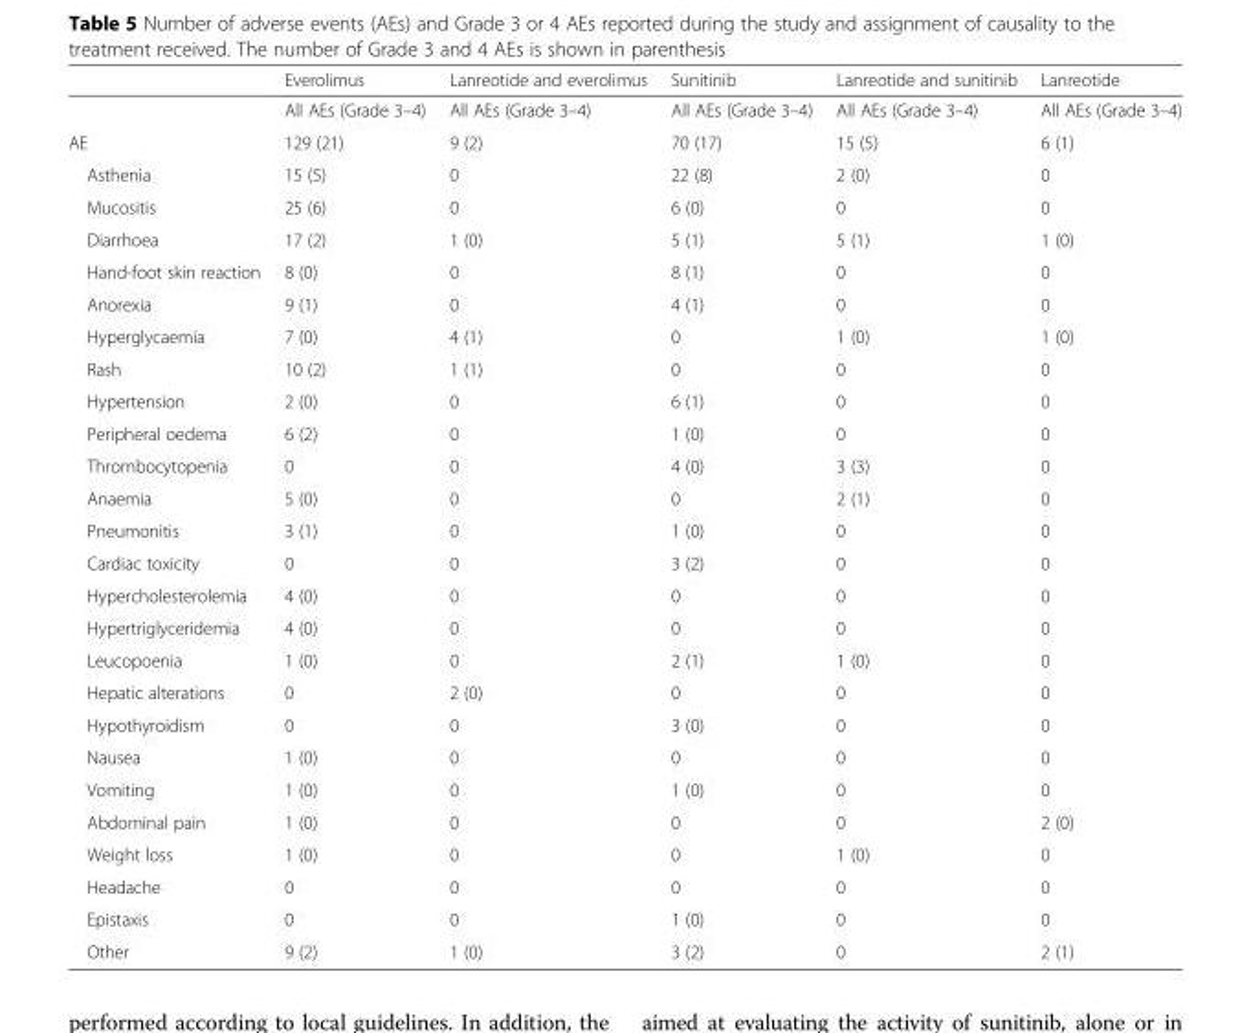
<table><thead><tr><td></td><td>Everolimus</td><td>Lanreotide and everolimus</td><td>Sunitinib</td><td>Lanreotide and sunitinib</td><td>Lanreotide</td></tr></thead><tbody><tr><td></td><td>All AEs (Grade 3–4)</td><td>All AEs (Grade 3–4)</td><td>All AEs (Grade 3–4)</td><td>All AEs (Grade 3–4)</td><td>All AEs (Grade 3–4)</td></tr><tr><td>AE</td><td>129 (21)</td><td>9 (2)</td><td>70 (17)</td><td>15 (5)</td><td>6 (1)</td></tr><tr><td>Asthenia</td><td>15 (5)</td><td>0</td><td>22 (8)</td><td>2 (0)</td><td>0</td></tr><tr><td>Mucositis</td><td>25 (6)</td><td>0</td><td>6 (0)</td><td>0</td><td>0</td></tr><tr><td>Diarrhoea</td><td>17 (2)</td><td>1 (0)</td><td>5 (1)</td><td>5 (1)</td><td>1 (0)</td></tr><tr><td>Hand-foot skin reaction</td><td>8 (0)</td><td>0</td><td>8 (1)</td><td>0</td><td>0</td></tr><tr><td>Anorexia</td><td>9 (1)</td><td>0</td><td>4 (1)</td><td>0</td><td>0</td></tr><tr><td>Hyperglycaemia</td><td>7 (0)</td><td>4 (1)</td><td>0</td><td>1 (0)</td><td>1 (0)</td></tr><tr><td>Rash</td><td>10 (2)</td><td>1 (1)</td><td>0</td><td>0</td><td>0</td></tr><tr><td>Hypertension</td><td>2 (0)</td><td>0</td><td>6 (1)</td><td>0</td><td>0</td></tr><tr><td>Peripheral oedema</td><td>6 (2)</td><td>0</td><td>1 (0)</td><td>0</td><td>0</td></tr><tr><td>Thrombocytopenia</td><td>0</td><td>0</td><td>4 (0)</td><td>3 (3)</td><td>0</td></tr><tr><td>Anaemia</td><td>5 (0)</td><td>0</td><td>0</td><td>2 (1)</td><td>0</td></tr><tr><td>Pneumonitis</td><td>3 (1)</td><td>0</td><td>1 (0)</td><td>0</td><td>0</td></tr><tr><td>Cardiac toxicity</td><td>0</td><td>0</td><td>3 (2)</td><td>0</td><td>0</td></tr><tr><td>Hypercholesterolemia</td><td>4 (0)</td><td>0</td><td>0</td><td>0</td><td>0</td></tr><tr><td>Hypertriglyceridemia</td><td>4 (0)</td><td>0</td><td>0</td><td>0</td><td>0</td></tr><tr><td>Leucopoenia</td><td>1 (0)</td><td>0</td><td>2 (1)</td><td>1 (0)</td><td>0</td></tr><tr><td>Hepatic alterations</td><td>0</td><td>2 (0)</td><td>0</td><td>0</td><td>0</td></tr><tr><td>Hypothyroidism</td><td>0</td><td>0</td><td>3 (0)</td><td>0</td><td>0</td></tr><tr><td>Nausea</td><td>1 (0)</td><td>0</td><td>0</td><td>0</td><td>0</td></tr><tr><td>Vomiting</td><td>1 (0)</td><td>0</td><td>1 (0)</td><td>0</td><td>0</td></tr><tr><td>Abdominal pain</td><td>1 (0)</td><td>0</td><td>0</td><td>0</td><td>2 (0)</td></tr><tr><td>Weight loss</td><td>1 (0)</td><td>0</td><td>0</td><td>1 (0)</td><td>0</td></tr><tr><td>Headache</td><td>0</td><td>0</td><td>0</td><td>0</td><td>0</td></tr><tr><td>Epistaxis</td><td>0</td><td>0</td><td>1 (0)</td><td>0</td><td>0</td></tr><tr><td>Other</td><td>9 (2)</td><td>1 (0)</td><td>3 (2)</td><td>0</td><td>2 (1)</td></tr></tbody></table>